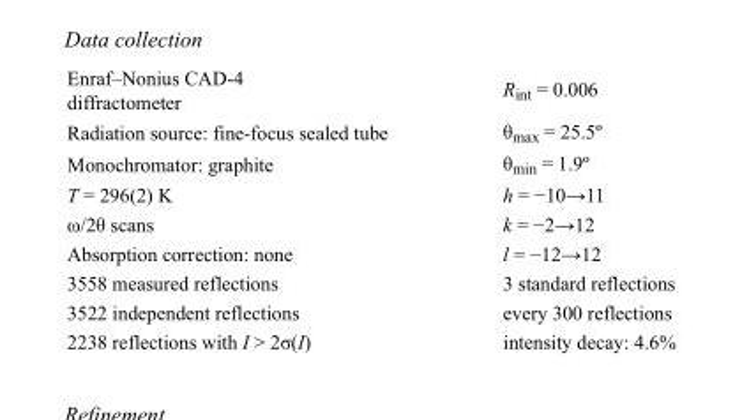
<table><tbody><tr><td>Enraf–Nonius CAD-4 diffractometer</td><td>R<sub>int</sub> = 0.006</td></tr><tr><td>Radiation source: fine-focus sealed tube</td><td>θ<sub>max</sub> = 25.5º</td></tr><tr><td>Monochromator: graphite</td><td>θ<sub>min</sub> = 1.9º</td></tr><tr><td>T = 296(2) K</td><td>h = −10→11</td></tr><tr><td>ω/2θ scans</td><td>k = −2→12</td></tr><tr><td>Absorption correction: none</td><td>l = −12→12</td></tr><tr><td>3558 measured reflections</td><td>3 standard reflections</td></tr><tr><td>3522 independent reflections</td><td>every 300 reflections</td></tr><tr><td>2238 reflections with I &gt; 2σ(I)</td><td>intensity decay: 4.6%</td></tr></tbody></table>